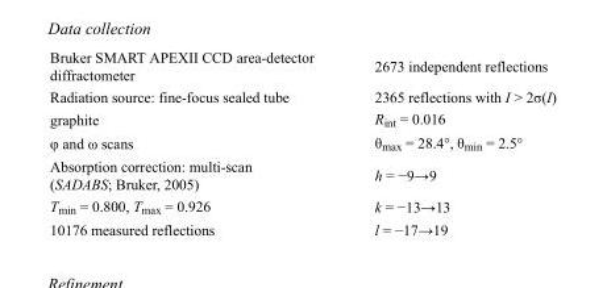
<table><tbody><tr><td>Bruker SMART APEXII CCD area-detector diffractometer</td><td>2673 independent reflections</td></tr><tr><td>Radiation source: fine-focus sealed tube</td><td>2365 reflections with I &gt; 2σ(I)</td></tr><tr><td>graphite</td><td>R<sub>int</sub> = 0.016</td></tr><tr><td>φ and ω scans</td><td>θ<sub>max</sub> = 28.4°, θ<sub>min</sub> = 2.5°</td></tr><tr><td>Absorption correction: multi-scan (SADABS; Bruker, 2005)</td><td>h = −9→9</td></tr><tr><td>T<sub>min</sub> = 0.800, T<sub>max</sub> = 0.926</td><td>k = −13→13</td></tr><tr><td>10176 measured reflections</td><td>l = −17→19</td></tr></tbody></table>